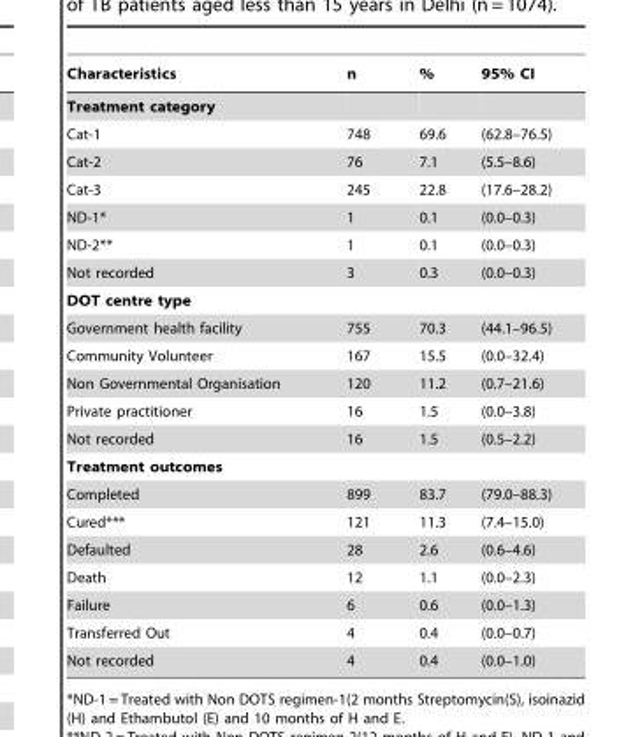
<table><thead><tr><td>Characteristics</td><td>n</td><td>%</td><td>95% CI</td></tr></thead><tbody><tr><td colspan="4">Treatment category</td></tr><tr><td>Cat-1</td><td>748</td><td>69.6</td><td>(62.8–76.5)</td></tr><tr><td>Cat-2</td><td>76</td><td>7.1</td><td>(5.5–8.6)</td></tr><tr><td>Cat-3</td><td>245</td><td>22.8</td><td>(17.6–28.2)</td></tr><tr><td>ND-1*</td><td>1</td><td>0.1</td><td>(0.0–0.3)</td></tr><tr><td>ND-2**</td><td>1</td><td>0.1</td><td>(0.0–0.3)</td></tr><tr><td>Not recorded</td><td>3</td><td>0.3</td><td>(0.0–0.3)</td></tr><tr><td colspan="4">DOT centre type</td></tr><tr><td>Government health facility</td><td>755</td><td>70.3</td><td>(44.1–96.5)</td></tr><tr><td>Community Volunteer</td><td>167</td><td>15.5</td><td>(0.0–32.4)</td></tr><tr><td>Non Governmental Organisation</td><td>120</td><td>11.2</td><td>(0.7–21.6)</td></tr><tr><td>Private practitioner</td><td>16</td><td>1.5</td><td>(0.0–3.8)</td></tr><tr><td>Not recorded</td><td>16</td><td>1.5</td><td>(0.5–2.2)</td></tr><tr><td colspan="4">Treatment outcomes</td></tr><tr><td>Completed</td><td>899</td><td>83.7</td><td>(79.0–88.3)</td></tr><tr><td>Cured***</td><td>121</td><td>11.3</td><td>(7.4–15.0)</td></tr><tr><td>Defaulted</td><td>28</td><td>2.6</td><td>(0.6–4.6)</td></tr><tr><td>Death</td><td>12</td><td>1.1</td><td>(0.0–2.3)</td></tr><tr><td>Failure</td><td>6</td><td>0.6</td><td>(0.0–1.3)</td></tr><tr><td>Transferred Out</td><td>4</td><td>0.4</td><td>(0.0–0.7)</td></tr><tr><td>Not recorded</td><td>4</td><td>0.4</td><td>(0.0–1.0)</td></tr></tbody></table>